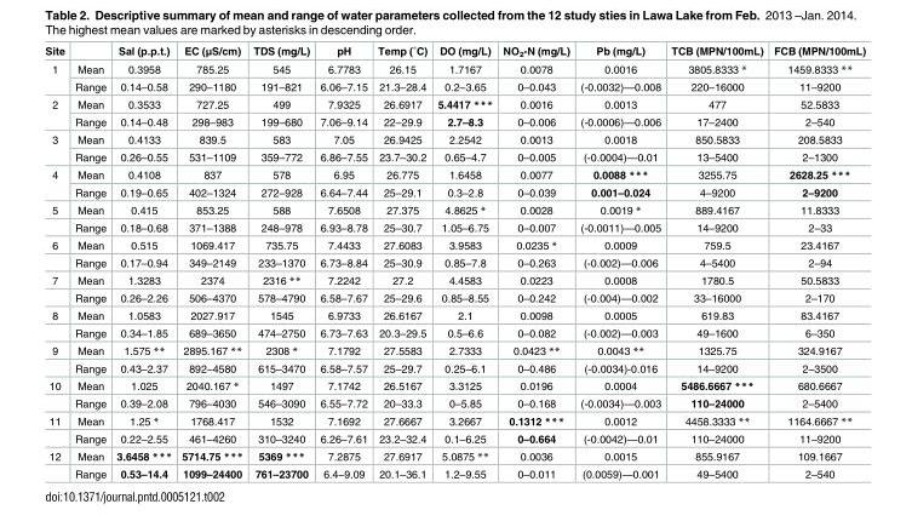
<table><thead><tr><td>Site</td><td></td><td>Sal (p.p.t.)</td><td>EC (μS/cm)</td><td>TDS (mg/L)</td><td>pH</td><td>Temp (˚C)</td><td>DO (mg/L)</td><td>NO<sub>2</sub>-N (mg/L)</td><td>Pb (mg/L)</td><td>TCB (MPN/100mL)</td><td>FCB (MPN/100mL)</td></tr></thead><tbody><tr><td rowspan="2">1</td><td>Mean</td><td>0.3958</td><td>785.25</td><td>545</td><td>6.7783</td><td>26.15</td><td>1.7167</td><td>0.0078</td><td>0.0016</td><td>3805.8333 *</td><td>1459.8333 **</td></tr><tr><td>Range</td><td>0.14–0.58</td><td>290–1180</td><td>191–821</td><td>6.06–7.15</td><td>21.3–28.4</td><td>0.2–3.65</td><td>0–0.043</td><td>(-0.0032)—0.008</td><td>220–16000</td><td>11–9200</td></tr><tr><td rowspan="2">2</td><td>Mean</td><td>0.3533</td><td>727.25</td><td>499</td><td>7.9325</td><td>26.6917</td><td>5.4417 ***</td><td>0.0016</td><td>0.0013</td><td>477</td><td>52.5833</td></tr><tr><td>Range</td><td>0.14–0.48</td><td>298–983</td><td>199–680</td><td>7.06–9.14</td><td>22–29.9</td><td>2.7–8.3</td><td>0–0.006</td><td>(-0.0006)—0.006</td><td>17–2400</td><td>2–540</td></tr><tr><td rowspan="2">3</td><td>Mean</td><td>0.4133</td><td>839.5</td><td>583</td><td>7.05</td><td>26.9425</td><td>2.2542</td><td>0.0013</td><td>0.0018</td><td>850.5833</td><td>208.5833</td></tr><tr><td>Range</td><td>0.26–0.55</td><td>531–1109</td><td>359–772</td><td>6.86–7.55</td><td>23.7–30.2</td><td>0.65–4.7</td><td>0–0.005</td><td>(-0.0004)—0.01</td><td>13–5400</td><td>2–1300</td></tr><tr><td rowspan="2">4</td><td>Mean</td><td>0.4108</td><td>837</td><td>578</td><td>6.95</td><td>26.775</td><td>1.6458</td><td>0.0077</td><td>0.0088 ***</td><td>3255.75</td><td>2628.25 ***</td></tr><tr><td>Range</td><td>0.19–0.65</td><td>402–1324</td><td>272–928</td><td>6.64–7.44</td><td>25–29.1</td><td>0.3–2.8</td><td>0–0.039</td><td>0.001–0.024</td><td>4–9200</td><td>2–9200</td></tr><tr><td rowspan="2">5</td><td>Mean</td><td>0.415</td><td>853.25</td><td>588</td><td>7.6508</td><td>27.375</td><td>4.8625 *</td><td>0.0028</td><td>0.0019 *</td><td>889.4167</td><td>11.8333</td></tr><tr><td>Range</td><td>0.18–0.68</td><td>371–1388</td><td>248–978</td><td>6.93–8.78</td><td>25–30.7</td><td>1.05–6.75</td><td>0–0.007</td><td>(-0.0011)—0.005</td><td>14–9200</td><td>2–33</td></tr><tr><td rowspan="2">6</td><td>Mean</td><td>0.515</td><td>1069.417</td><td>735.75</td><td>7.4433</td><td>27.6083</td><td>3.9583</td><td>0.0235 *</td><td>0.0009</td><td>759.5</td><td>23.4167</td></tr><tr><td>Range</td><td>0.17–0.94</td><td>349–2149</td><td>233–1370</td><td>6.73–8.84</td><td>25–30.9</td><td>0.85–7.8</td><td>0–0.263</td><td>(-0.002)—0.006</td><td>4–5400</td><td>2–94</td></tr><tr><td rowspan="2">7</td><td>Mean</td><td>1.3283</td><td>2374</td><td>2316 **</td><td>7.2242</td><td>27.2</td><td>4.4583</td><td>0.0223</td><td>0.0008</td><td>1780.5</td><td>50.5833</td></tr><tr><td>Range</td><td>0.26–2.26</td><td>506–4370</td><td>578–4790</td><td>6.58–7.67</td><td>25–29.6</td><td>0.85–8.55</td><td>0–0.242</td><td>(-0.004)—0.002</td><td>33–16000</td><td>2–170</td></tr><tr><td rowspan="2">8</td><td>Mean</td><td>1.0583</td><td>2027.917</td><td>1545</td><td>6.9733</td><td>26.6167</td><td>2.1</td><td>0.0098</td><td>0.0005</td><td>619.83</td><td>83.4167</td></tr><tr><td>Range</td><td>0.34–1.85</td><td>689–3650</td><td>474–2750</td><td>6.73–7.63</td><td>20.3–29.5</td><td>0.5–6.6</td><td>0–0.082</td><td>(-0.002)—0.003</td><td>49–1600</td><td>6–350</td></tr><tr><td rowspan="2">9</td><td>Mean</td><td>1.575 **</td><td>2895.167 **</td><td>2308 *</td><td>7.1792</td><td>27.5583</td><td>2.7333</td><td>0.0423 **</td><td>0.0043 **</td><td>1325.75</td><td>324.9167</td></tr><tr><td>Range</td><td>0.43–2.37</td><td>892–4580</td><td>615–3470</td><td>6.58–7.57</td><td>25–29.7</td><td>0.25–6.1</td><td>0–0.486</td><td>(-0.0034)-0.016</td><td>14–9200</td><td>2–3500</td></tr><tr><td rowspan="2">10</td><td>Mean</td><td>1.025</td><td>2040.167 *</td><td>1497</td><td>7.1742</td><td>26.5167</td><td>3.3125</td><td>0.0196</td><td>0.0004</td><td>5486.6667 ***</td><td>680.6667</td></tr><tr><td>Range</td><td>0.39–2.08</td><td>796–4030</td><td>546–3090</td><td>6.55–7.72</td><td>20–33.3</td><td>0–5.85</td><td>0–0.168</td><td>(-0.0034)—0.003</td><td>110–24000</td><td>2–5400</td></tr><tr><td rowspan="2">11</td><td>Mean</td><td>1.25 *</td><td>1768.417</td><td>1532</td><td>7.1692</td><td>27.6667</td><td>3.2667</td><td>0.1312 ***</td><td>0.0012</td><td>4458.3333 **</td><td>1164.6667 **</td></tr><tr><td>Range</td><td>0.22–2.55</td><td>461–4260</td><td>310–3240</td><td>6.26–7.61</td><td>23.2–32.4</td><td>0.1–6.25</td><td>0–0.664</td><td>(-0.0042)—0.01</td><td>110–24000</td><td>11–9200</td></tr><tr><td rowspan="2">12</td><td>Mean</td><td>3.6458 ***</td><td>5714.75 ***</td><td>5369 ***</td><td>7.2875</td><td>27.6917</td><td>5.0875 **</td><td>0.0036</td><td>0.0015</td><td>855.9167</td><td>109.1667</td></tr><tr><td>Range</td><td>0.53–14.4</td><td>1099–24400</td><td>761–23700</td><td>6.4–9.09</td><td>20.1–36.1</td><td>1.2–9.55</td><td>0–0.011</td><td>(0.0059)—0.001</td><td>49–5400</td><td>2–540</td></tr></tbody></table>